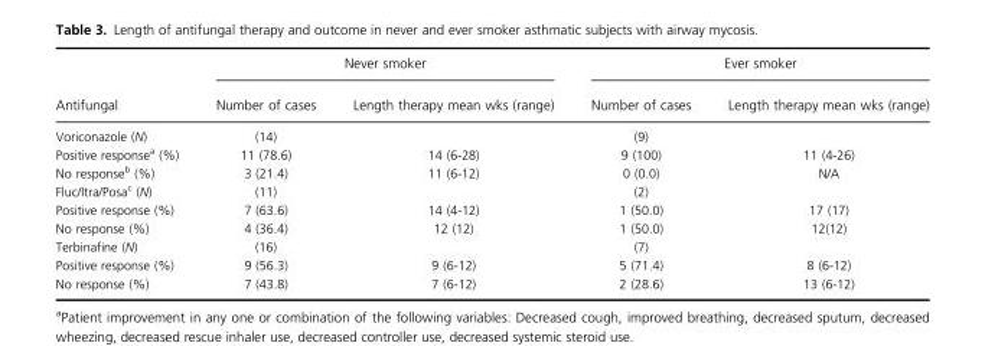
<table><thead><tr><td rowspan="2">Antifungal</td><td colspan="2">Never smoker</td><td colspan="2">Ever smoker</td></tr><tr><td>Number of cases</td><td>Length therapy mean wks (range)</td><td>Number of cases</td><td>Length therapy mean wks (range)</td></tr></thead><tbody><tr><td>Voriconazole (N)</td><td>(14)</td><td></td><td>(9)</td><td></td></tr><tr><td>Positive response<sup>a</sup> (%)</td><td>11 (78.6)</td><td>14 (6-28)</td><td>9 (100)</td><td>11 (4-26)</td></tr><tr><td>No response<sup>b</sup> (%)</td><td>3 (21.4)</td><td>11 (6-12)</td><td>0 (0.0)</td><td>N/A</td></tr><tr><td>Fluc/Itra/Posa<sup>c</sup> (N)</td><td>(11)</td><td></td><td>(2)</td><td></td></tr><tr><td>Positive response (%)</td><td>7 (63.6)</td><td>14 (4-12)</td><td>1 (50.0)</td><td>17 (17)</td></tr><tr><td>No response (%)</td><td>4 (36.4)</td><td>12 (12)</td><td>1 (50.0)</td><td>12(12)</td></tr><tr><td>Terbinafine (N)</td><td>(16)</td><td></td><td>(7)</td><td></td></tr><tr><td>Positive response (%)</td><td>9 (56.3)</td><td>9 (6-12)</td><td>5 (71.4)</td><td>8 (6-12)</td></tr><tr><td>No response (%)</td><td>7 (43.8)</td><td>7 (6-12)</td><td>2 (28.6)</td><td>13 (6-12)</td></tr></tbody></table>